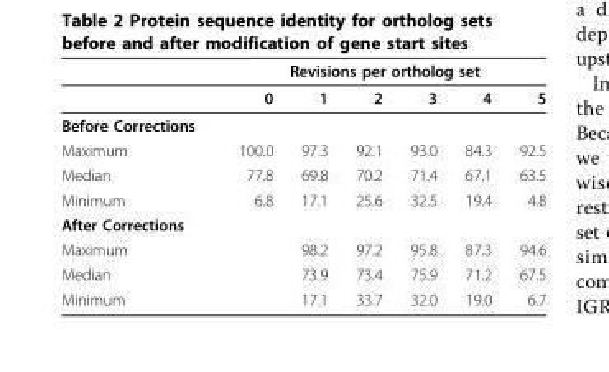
<table><thead><tr><td rowspan="2"></td><td colspan="6">Revisions per ortholog set</td></tr><tr><td>0</td><td>1</td><td>2</td><td>3</td><td>4</td><td>5</td></tr></thead><tbody><tr><td colspan="7">Before Corrections</td></tr><tr><td>Maximum</td><td>100.0</td><td>97.3</td><td>92.1</td><td>93.0</td><td>84.3</td><td>92.5</td></tr><tr><td>Median</td><td>77.8</td><td>69.8</td><td>70.2</td><td>71.4</td><td>67.1</td><td>63.5</td></tr><tr><td>Minimum</td><td>6.8</td><td>17.1</td><td>25.6</td><td>32.5</td><td>19.4</td><td>4.8</td></tr><tr><td colspan="7">After Corrections</td></tr><tr><td>Maximum</td><td></td><td>98.2</td><td>97.2</td><td>95.8</td><td>87.3</td><td>94.6</td></tr><tr><td>Median</td><td></td><td>73.9</td><td>73.4</td><td>75.9</td><td>71.2</td><td>67.5</td></tr><tr><td>Minimum</td><td></td><td>17.1</td><td>33.7</td><td>32.0</td><td>19.0</td><td>6.7</td></tr></tbody></table>